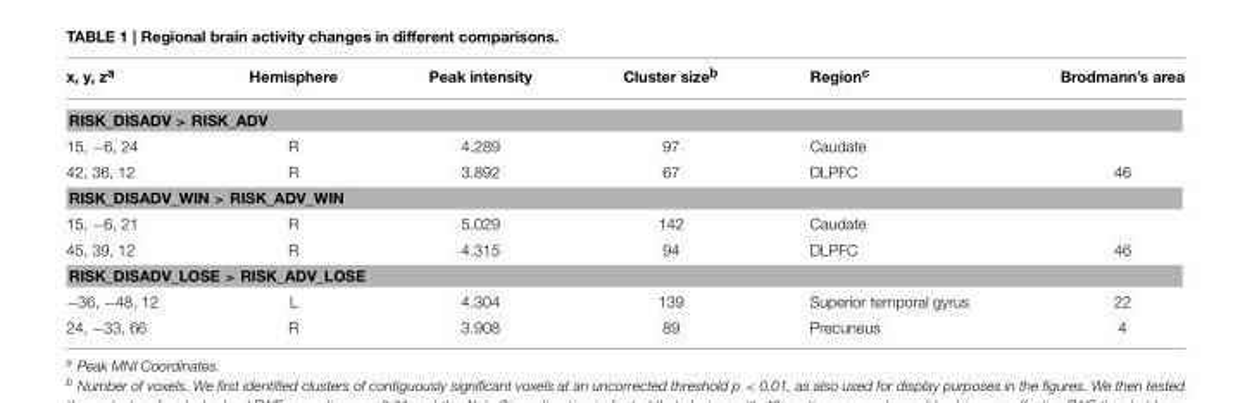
<table><thead><tr><td>x, y, z<sup>a</sup></td><td>Hemisphere</td><td>Peak intensity</td><td>Cluster size<sup>b</sup></td><td>Region<sup>c</sup></td><td>Brodmann’s area</td></tr></thead><tbody><tr><td colspan="6">RISK_DISADV &gt; RISK_ADV</td></tr><tr><td>15, −6, 24</td><td>R</td><td>4.289</td><td>97</td><td>Caudate</td><td></td></tr><tr><td>42, 36, 12</td><td>R</td><td>3.892</td><td>67</td><td>DLPFC</td><td>46</td></tr><tr><td colspan="6">RISK_DISADV_WIN &gt; RISK_ADV_WIN</td></tr><tr><td>15, −6, 21</td><td>R</td><td>5.029</td><td>142</td><td>Caudate</td><td></td></tr><tr><td>45, 39, 12</td><td>R</td><td>4.315</td><td>94</td><td>DLPFC</td><td>46</td></tr><tr><td colspan="6">RISK_DISADV_LOSE &gt; RISK_ADV_LOSE</td></tr><tr><td>−36, −48, 12</td><td>L</td><td>4.304</td><td>139</td><td>Superior temporal gyrus</td><td>22</td></tr><tr><td>24, −33, 66</td><td>R</td><td>3.908</td><td>89</td><td>Precuneus</td><td>4</td></tr></tbody></table>